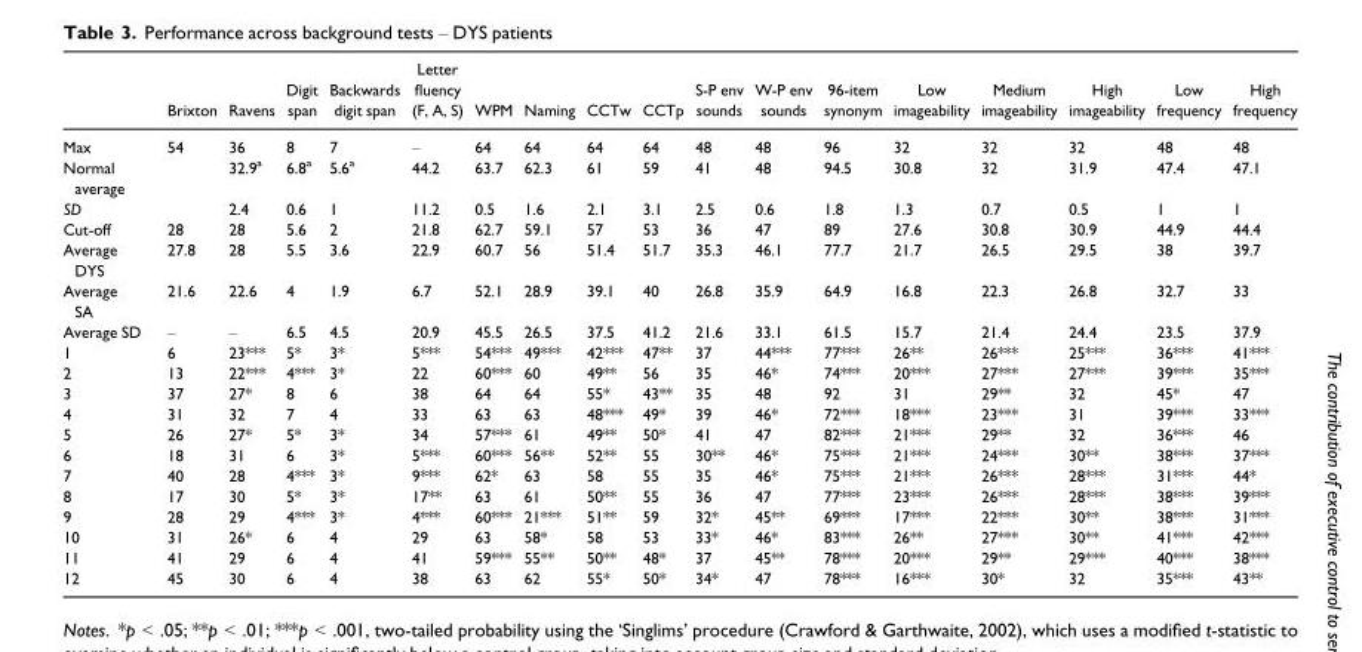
<table><thead><tr><td></td><td>Brixton</td><td>Ravens</td><td>Digit span</td><td>Backwards digit span</td><td>Letter fluency (F, A, S)</td><td>WPM</td><td>Naming</td><td>CCTw</td><td>CCTp</td><td>S-P env sounds</td><td>W-P env sounds</td><td>96-item synonym</td><td>Low imageability</td><td>Medium imageability</td><td>High imageability</td><td>Low frequency</td><td>High frequency</td></tr></thead><tbody><tr><td>Max</td><td>54</td><td>36</td><td>8</td><td>7</td><td>–</td><td>64</td><td>64</td><td>64</td><td>64</td><td>48</td><td>48</td><td>96</td><td>32</td><td>32</td><td>32</td><td>48</td><td>48</td></tr><tr><td>Normal average</td><td></td><td>32.9<sup>a</sup></td><td>6.8<sup>a</sup></td><td>5.6<sup>a</sup></td><td>44.2</td><td>63.7</td><td>62.3</td><td>61</td><td>59</td><td>41</td><td>48</td><td>94.5</td><td>30.8</td><td>32</td><td>31.9</td><td>47.4</td><td>47.1</td></tr><tr><td>SD</td><td></td><td>2.4</td><td>0.6</td><td>1</td><td>11.2</td><td>0.5</td><td>1.6</td><td>2.1</td><td>3.1</td><td>2.5</td><td>0.6</td><td>1.8</td><td>1.3</td><td>0.7</td><td>0.5</td><td>1</td><td>1</td></tr><tr><td>Cut-off</td><td>28</td><td>28</td><td>5.6</td><td>2</td><td>21.8</td><td>62.7</td><td>59.1</td><td>57</td><td>53</td><td>36</td><td>47</td><td>89</td><td>27.6</td><td>30.8</td><td>30.9</td><td>44.9</td><td>44.4</td></tr><tr><td>Average DYS</td><td>27.8</td><td>28</td><td>5.5</td><td>3.6</td><td>22.9</td><td>60.7</td><td>56</td><td>51.4</td><td>51.7</td><td>35.3</td><td>46.1</td><td>77.7</td><td>21.7</td><td>26.5</td><td>29.5</td><td>38</td><td>39.7</td></tr><tr><td>Average SA</td><td>21.6</td><td>22.6</td><td>4</td><td>1.9</td><td>6.7</td><td>52.1</td><td>28.9</td><td>39.1</td><td>40</td><td>26.8</td><td>35.9</td><td>64.9</td><td>16.8</td><td>22.3</td><td>26.8</td><td>32.7</td><td>33</td></tr><tr><td>Average SD</td><td>–</td><td>–</td><td>6.5</td><td>4.5</td><td>20.9</td><td>45.5</td><td>26.5</td><td>37.5</td><td>41.2</td><td>21.6</td><td>33.1</td><td>61.5</td><td>15.7</td><td>21.4</td><td>24.4</td><td>23.5</td><td>37.9</td></tr><tr><td>1</td><td>6</td><td>23***</td><td>5*</td><td>3*</td><td>5***</td><td>54***</td><td>49***</td><td>42***</td><td>47**</td><td>37</td><td>44***</td><td>77***</td><td>26**</td><td>26***</td><td>25***</td><td>36***</td><td>41***</td></tr><tr><td>2</td><td>13</td><td>22***</td><td>4***</td><td>3*</td><td>22</td><td>60***</td><td>60</td><td>49**</td><td>56</td><td>35</td><td>46*</td><td>74***</td><td>20***</td><td>27***</td><td>27***</td><td>39***</td><td>35***</td></tr><tr><td>3</td><td>37</td><td>27*</td><td>8</td><td>6</td><td>38</td><td>64</td><td>64</td><td>55*</td><td>43**</td><td>35</td><td>48</td><td>92</td><td>31</td><td>29**</td><td>32</td><td>45*</td><td>47</td></tr><tr><td>4</td><td>31</td><td>32</td><td>7</td><td>4</td><td>33</td><td>63</td><td>63</td><td>48***</td><td>49*</td><td>39</td><td>46*</td><td>72***</td><td>18***</td><td>23***</td><td>31</td><td>39***</td><td>33***</td></tr><tr><td>5</td><td>26</td><td>27*</td><td>5*</td><td>3*</td><td>34</td><td>57***</td><td>61</td><td>49**</td><td>50*</td><td>41</td><td>47</td><td>82***</td><td>21***</td><td>29**</td><td>32</td><td>36***</td><td>46</td></tr><tr><td>6</td><td>18</td><td>31</td><td>6</td><td>3*</td><td>5***</td><td>60***</td><td>56**</td><td>52**</td><td>55</td><td>30**</td><td>46*</td><td>75***</td><td>21***</td><td>24***</td><td>30**</td><td>38***</td><td>37***</td></tr><tr><td>7</td><td>40</td><td>28</td><td>4***</td><td>3*</td><td>9***</td><td>62*</td><td>63</td><td>58</td><td>55</td><td>35</td><td>46*</td><td>75***</td><td>21***</td><td>26***</td><td>28***</td><td>31***</td><td>44*</td></tr><tr><td>8</td><td>17</td><td>30</td><td>5*</td><td>3*</td><td>17**</td><td>63</td><td>61</td><td>50**</td><td>55</td><td>36</td><td>47</td><td>77***</td><td>23***</td><td>26***</td><td>28***</td><td>38***</td><td>39***</td></tr><tr><td>9</td><td>28</td><td>29</td><td>4***</td><td>3*</td><td>4***</td><td>60***</td><td>21***</td><td>51**</td><td>59</td><td>32*</td><td>45**</td><td>69***</td><td>17***</td><td>22***</td><td>30**</td><td>38***</td><td>31***</td></tr><tr><td>10</td><td>31</td><td>26*</td><td>6</td><td>4</td><td>29</td><td>63</td><td>58*</td><td>58</td><td>53</td><td>33*</td><td>46*</td><td>83***</td><td>26**</td><td>27***</td><td>30**</td><td>41***</td><td>42***</td></tr><tr><td>11</td><td>41</td><td>29</td><td>6</td><td>4</td><td>41</td><td>59***</td><td>55**</td><td>50**</td><td>48*</td><td>37</td><td>45**</td><td>78***</td><td>20***</td><td>29**</td><td>29***</td><td>40***</td><td>38***</td></tr><tr><td>12</td><td>45</td><td>30</td><td>6</td><td>4</td><td>38</td><td>63</td><td>62</td><td>55*</td><td>50*</td><td>34*</td><td>47</td><td>78***</td><td>16***</td><td>30*</td><td>32</td><td>35***</td><td>43**</td></tr></tbody></table>